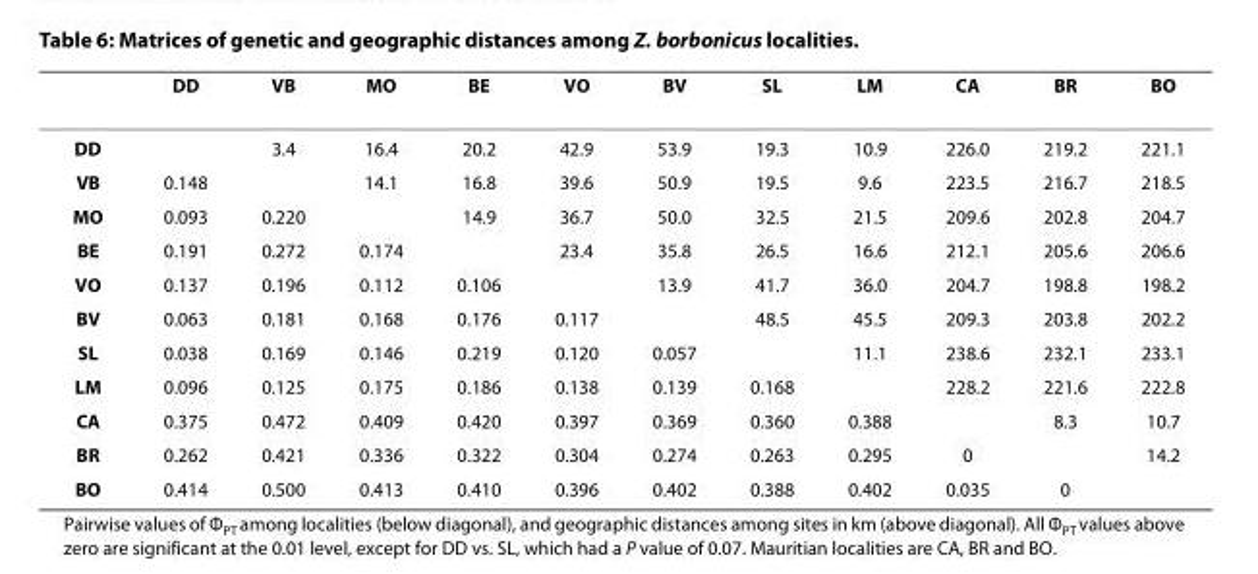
<table><thead><tr><td></td><td>DD</td><td>VB</td><td>MO</td><td>BE</td><td>VO</td><td>BV</td><td>SL</td><td>LM</td><td>CA</td><td>BR</td><td>BO</td></tr></thead><tbody><tr><td>DD</td><td></td><td>3.4</td><td>16.4</td><td>20.2</td><td>42.9</td><td>53.9</td><td>19.3</td><td>10.9</td><td>226.0</td><td>219.2</td><td>221.1</td></tr><tr><td>VB</td><td>0.148</td><td></td><td>14.1</td><td>16.8</td><td>39.6</td><td>50.9</td><td>19.5</td><td>9.6</td><td>223.5</td><td>216.7</td><td>218.5</td></tr><tr><td>MO</td><td>0.093</td><td>0.220</td><td></td><td>14.9</td><td>36.7</td><td>50.0</td><td>32.5</td><td>21.5</td><td>209.6</td><td>202.8</td><td>204.7</td></tr><tr><td>BE</td><td>0.191</td><td>0.272</td><td>0.174</td><td></td><td>23.4</td><td>35.8</td><td>26.5</td><td>16.6</td><td>212.1</td><td>205.6</td><td>206.6</td></tr><tr><td>VO</td><td>0.137</td><td>0.196</td><td>0.112</td><td>0.106</td><td></td><td>13.9</td><td>41.7</td><td>36.0</td><td>204.7</td><td>198.8</td><td>198.2</td></tr><tr><td>BV</td><td>0.063</td><td>0.181</td><td>0.168</td><td>0.176</td><td>0.117</td><td></td><td>48.5</td><td>45.5</td><td>209.3</td><td>203.8</td><td>202.2</td></tr><tr><td>SL</td><td>0.038</td><td>0.169</td><td>0.146</td><td>0.219</td><td>0.120</td><td>0.057</td><td></td><td>11.1</td><td>238.6</td><td>232.1</td><td>233.1</td></tr><tr><td>LM</td><td>0.096</td><td>0.125</td><td>0.175</td><td>0.186</td><td>0.138</td><td>0.139</td><td>0.168</td><td></td><td>228.2</td><td>221.6</td><td>222.8</td></tr><tr><td>CA</td><td>0.375</td><td>0.472</td><td>0.409</td><td>0.420</td><td>0.397</td><td>0.369</td><td>0.360</td><td>0.388</td><td></td><td>8.3</td><td>10.7</td></tr><tr><td>BR</td><td>0.262</td><td>0.421</td><td>0.336</td><td>0.322</td><td>0.304</td><td>0.274</td><td>0.263</td><td>0.295</td><td>0</td><td></td><td>14.2</td></tr><tr><td>BO</td><td>0.414</td><td>0.500</td><td>0.413</td><td>0.410</td><td>0.396</td><td>0.402</td><td>0.388</td><td>0.402</td><td>0.035</td><td>0</td><td></td></tr></tbody></table>